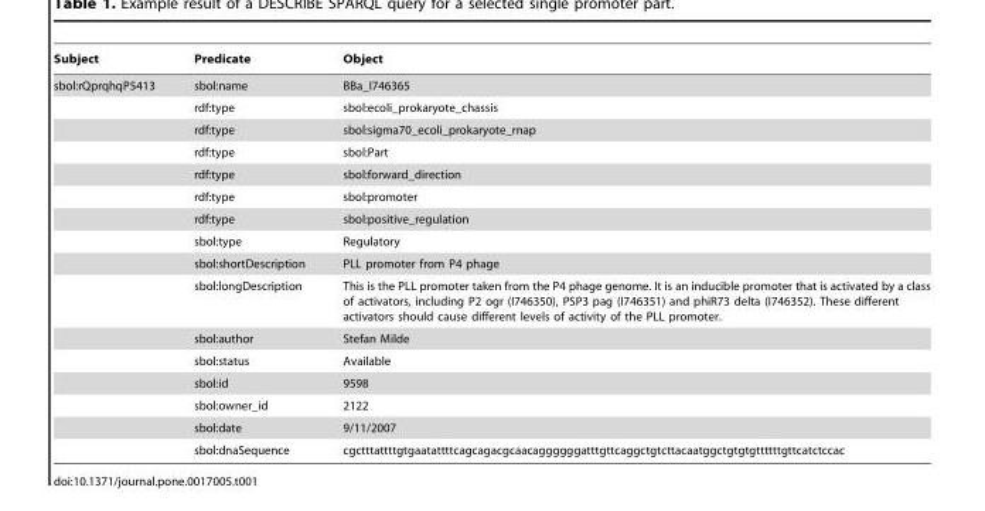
<table><thead><tr><td>Subject</td><td>Predicate</td><td>Object</td></tr></thead><tbody><tr><td rowspan="16">sbol:rQprqhqP5413</td><td>sbol:name</td><td>BBa_I746365</td></tr><tr><td>rdf:type</td><td>sbol:ecoli_prokaryote_chassis</td></tr><tr><td>rdf:type</td><td>sbol:sigma70_ecoli_prokaryote_rnap</td></tr><tr><td>rdf:type</td><td>sbol:Part</td></tr><tr><td>rdf:type</td><td>sbol:forward_direction</td></tr><tr><td>rdf:type</td><td>sbol:promoter</td></tr><tr><td>rdf:type</td><td>sbol:positive_regulation</td></tr><tr><td>sbol:type</td><td>Regulatory</td></tr><tr><td>sbol:shortDescription</td><td>PLL promoter from P4 phage</td></tr><tr><td>sbol:longDescription</td><td>This is the PLL promoter taken from the P4 phage genome. It is an inducible promoter that is activated by a class of activators, including P2 ogr (I746350), PSP3 pag (I746351) and phiR73 delta (I746352). These different activators should cause different levels of activity of the PLL promoter.</td></tr><tr><td>sbol:author</td><td>Stefan Milde</td></tr><tr><td>sbol:status</td><td>Available</td></tr><tr><td>sbol:id</td><td>9598</td></tr><tr><td>sbol:owner_id</td><td>2122</td></tr><tr><td>sbol:date</td><td>9/11/2007</td></tr><tr><td>sbol:dnaSequence</td><td>cgctttattttgtgaatattttcagcagacgcaacaggggggatttgttcaggctgtcttacaatggctgtgtgttttttgttcatctccac</td></tr></tbody></table>